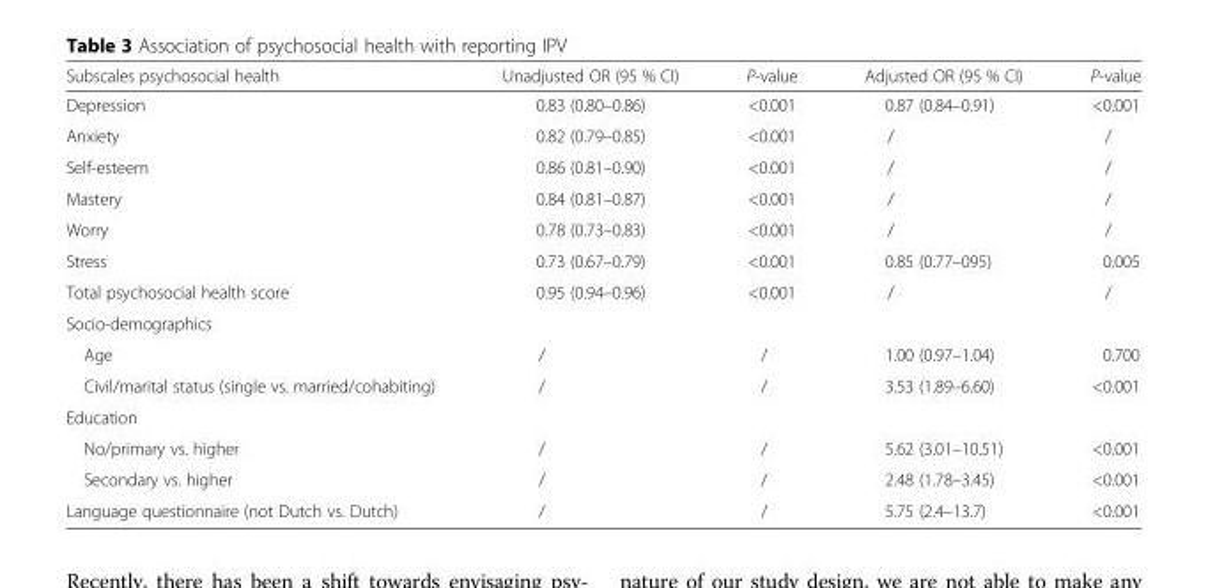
<table><thead><tr><td>Subscales psychosocial health</td><td>Unadjusted OR (95 % CI)</td><td>P-value</td><td>Adjusted OR (95 % CI)</td><td>P-value</td></tr></thead><tbody><tr><td>Depression</td><td>0.83 (0.80–0.86)</td><td>&lt;0.001</td><td>0.87 (0.84–0.91)</td><td>&lt;0.001</td></tr><tr><td>Anxiety</td><td>0.82 (0.79–0.85)</td><td>&lt;0.001</td><td>/</td><td>/</td></tr><tr><td>Self-esteem</td><td>0.86 (0.81–0.90)</td><td>&lt;0.001</td><td>/</td><td>/</td></tr><tr><td>Mastery</td><td>0.84 (0.81–0.87)</td><td>&lt;0.001</td><td>/</td><td>/</td></tr><tr><td>Worry</td><td>0.78 (0.73–0.83)</td><td>&lt;0.001</td><td>/</td><td>/</td></tr><tr><td>Stress</td><td>0.73 (0.67–0.79)</td><td>&lt;0.001</td><td>0.85 (0.77–095)</td><td>0.005</td></tr><tr><td>Total psychosocial health score</td><td>0.95 (0.94–0.96)</td><td>&lt;0.001</td><td>/</td><td>/</td></tr><tr><td colspan="5">Socio-demographics</td></tr><tr><td>Age</td><td>/</td><td>/</td><td>1.00 (0.97–1.04)</td><td>0.700</td></tr><tr><td>Civil/marital status (single vs. married/cohabiting)</td><td>/</td><td>/</td><td>3.53 (1.89–6.60)</td><td>&lt;0.001</td></tr><tr><td colspan="5">Education</td></tr><tr><td>No/primary vs. higher</td><td>/</td><td>/</td><td>5.62 (3.01–10.51)</td><td>&lt;0.001</td></tr><tr><td>Secondary vs. higher</td><td>/</td><td>/</td><td>2.48 (1.78–3.45)</td><td>&lt;0.001</td></tr><tr><td>Language questionnaire (not Dutch vs. Dutch)</td><td>/</td><td>/</td><td>5.75 (2.4–13.7)</td><td>&lt;0.001</td></tr></tbody></table>